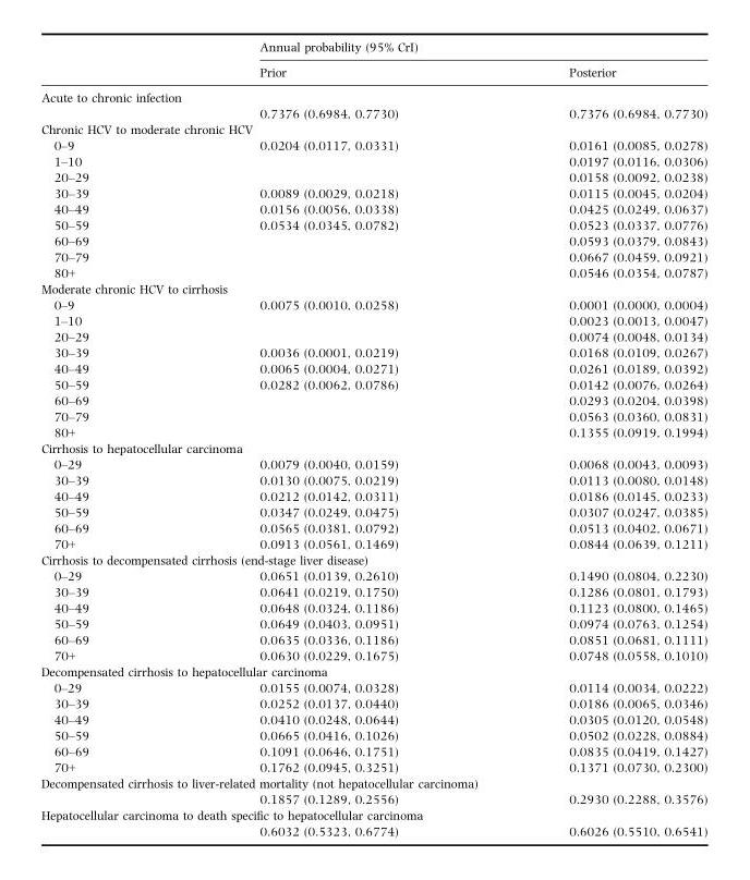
<table><thead><tr><td rowspan="2"></td><td colspan="2">Annual probability (95% CrI)</td></tr><tr><td>Prior</td><td>Posterior</td></tr></thead><tbody><tr><td colspan="3">Acute to chronic infection</td></tr><tr><td></td><td>0.7376 (0.6984, 0.7730)</td><td>0.7376 (0.6984, 0.7730)</td></tr><tr><td colspan="3">Chronic HCV to moderate chronic HCV</td></tr><tr><td>0–9</td><td rowspan="3">0.0204 (0.0117, 0.0331)</td><td>0.0161 (0.0085, 0.0278)</td></tr><tr><td>1–10</td><td>0.0197 (0.0116, 0.0306)</td></tr><tr><td>20–29</td><td>0.0158 (0.0092, 0.0238)</td></tr><tr><td>30–39</td><td>0.0089 (0.0029, 0.0218)</td><td>0.0115 (0.0045, 0.0204)</td></tr><tr><td>40–49</td><td>0.0156 (0.0056, 0.0338)</td><td>0.0425 (0.0249, 0.0637)</td></tr><tr><td>50–59</td><td rowspan="4">0.0534 (0.0345, 0.0782)</td><td>0.0523 (0.0337, 0.0776)</td></tr><tr><td>60–69</td><td>0.0593 (0.0379, 0.0843)</td></tr><tr><td>70–79</td><td>0.0667 (0.0459, 0.0921)</td></tr><tr><td>80+</td><td>0.0546 (0.0354, 0.0787)</td></tr><tr><td colspan="3">Moderate chronic HCV to cirrhosis</td></tr><tr><td>0–9</td><td rowspan="3">0.0075 (0.0010, 0.0258)</td><td>0.0001 (0.0000, 0.0004)</td></tr><tr><td>1–10</td><td>0.0023 (0.0013, 0.0047)</td></tr><tr><td>20–29</td><td>0.0074 (0.0048, 0.0134)</td></tr><tr><td>30–39</td><td>0.0036 (0.0001, 0.0219)</td><td>0.0168 (0.0109, 0.0267)</td></tr><tr><td>40–49</td><td>0.0065 (0.0004, 0.0271)</td><td>0.0261 (0.0189, 0.0392)</td></tr><tr><td>50–59</td><td rowspan="4">0.0282 (0.0062, 0.0786)</td><td>0.0142 (0.0076, 0.0264)</td></tr><tr><td>60–69</td><td>0.0293 (0.0204, 0.0398)</td></tr><tr><td>70–79</td><td>0.0563 (0.0360, 0.0831)</td></tr><tr><td>80+</td><td>0.1355 (0.0919, 0.1994)</td></tr><tr><td colspan="3">Cirrhosis to hepatocellular carcinoma</td></tr><tr><td>0–29</td><td>0.0079 (0.0040, 0.0159)</td><td>0.0068 (0.0043, 0.0093)</td></tr><tr><td>30–39</td><td>0.0130 (0.0075, 0.0219)</td><td>0.0113 (0.0080, 0.0148)</td></tr><tr><td>40–49</td><td>0.0212 (0.0142, 0.0311)</td><td>0.0186 (0.0145, 0.0233)</td></tr><tr><td>50–59</td><td>0.0347 (0.0249, 0.0475)</td><td>0.0307 (0.0247, 0.0385)</td></tr><tr><td>60–69</td><td>0.0565 (0.0381, 0.0792)</td><td>0.0513 (0.0402, 0.0671)</td></tr><tr><td>70+</td><td>0.0913 (0.0561, 0.1469)</td><td>0.0844 (0.0639, 0.1211)</td></tr><tr><td colspan="3">Cirrhosis to decompensated cirrhosis (end-stage liver disease)</td></tr><tr><td>0–29</td><td>0.0651 (0.0139, 0.2610)</td><td>0.1490 (0.0804, 0.2230)</td></tr><tr><td>30–39</td><td>0.0641 (0.0219, 0.1750)</td><td>0.1286 (0.0801, 0.1793)</td></tr><tr><td>40–49</td><td>0.0648 (0.0324, 0.1186)</td><td>0.1123 (0.0800, 0.1465)</td></tr><tr><td>50–59</td><td>0.0649 (0.0403, 0.0951)</td><td>0.0974 (0.0763, 0.1254)</td></tr><tr><td>60–69</td><td>0.0635 (0.0336, 0.1186)</td><td>0.0851 (0.0681, 0.1111)</td></tr><tr><td>70+</td><td>0.0630 (0.0229, 0.1675)</td><td>0.0748 (0.0558, 0.1010)</td></tr><tr><td colspan="3">Decompensated cirrhosis to hepatocellular carcinoma</td></tr><tr><td>0–29</td><td>0.0155 (0.0074, 0.0328)</td><td>0.0114 (0.0034, 0.0222)</td></tr><tr><td>30–39</td><td>0.0252 (0.0137, 0.0440)</td><td>0.0186 (0.0065, 0.0346)</td></tr><tr><td>40–49</td><td>0.0410 (0.0248, 0.0644)</td><td>0.0305 (0.0120, 0.0548)</td></tr><tr><td>50–59</td><td>0.0665 (0.0416, 0.1026)</td><td>0.0502 (0.0228, 0.0884)</td></tr><tr><td>60–69</td><td>0.1091 (0.0646, 0.1751)</td><td>0.0835 (0.0419, 0.1427)</td></tr><tr><td>70+</td><td>0.1762 (0.0945, 0.3251)</td><td>0.1371 (0.0730, 0.2300)</td></tr><tr><td colspan="3">Decompensated cirrhosis to liver-related mortality (not hepatocellular carcinoma)</td></tr><tr><td></td><td>0.1857 (0.1289, 0.2556)</td><td>0.2930 (0.2288, 0.3576)</td></tr><tr><td colspan="3">Hepatocellular carcinoma to death specific to hepatocellular carcinoma</td></tr><tr><td></td><td>0.6032 (0.5323, 0.6774)</td><td>0.6026 (0.5510, 0.6541)</td></tr></tbody></table>